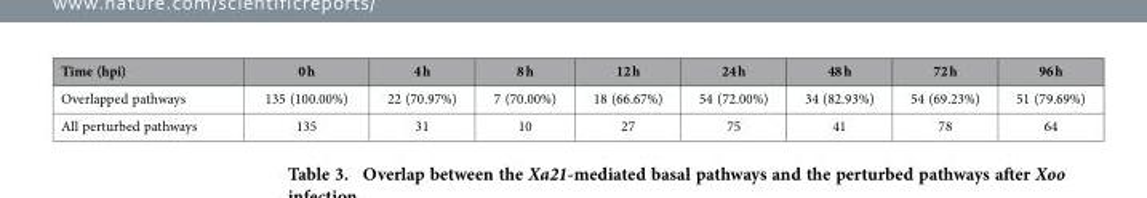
<table><thead><tr><td>Time (hpi)</td><td>0 h</td><td>4 h</td><td>8 h</td><td>12 h</td><td>24 h</td><td>48 h</td><td>72 h</td><td>96 h</td></tr></thead><tbody><tr><td>Overlapped pathways</td><td>135 (100.00%)</td><td>22 (70.97%)</td><td>7 (70.00%)</td><td>18 (66.67%)</td><td>54 (72.00%)</td><td>34 (82.93%)</td><td>54 (69.23%)</td><td>51 (79.69%)</td></tr><tr><td>All perturbed pathways</td><td>135</td><td>31</td><td>10</td><td>27</td><td>75</td><td>41</td><td>78</td><td>64</td></tr></tbody></table>